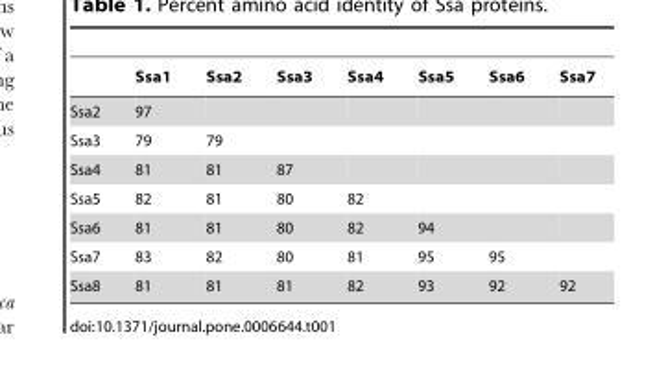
<table><thead><tr><td></td><td>Ssa1</td><td>Ssa2</td><td>Ssa3</td><td>Ssa4</td><td>Ssa5</td><td>Ssa6</td><td>Ssa7</td></tr></thead><tbody><tr><td>Ssa2</td><td>97</td><td></td><td></td><td></td><td></td><td></td><td></td></tr><tr><td>Ssa3</td><td>79</td><td>79</td><td></td><td></td><td></td><td></td><td></td></tr><tr><td>Ssa4</td><td>81</td><td>81</td><td>87</td><td></td><td></td><td></td><td></td></tr><tr><td>Ssa5</td><td>82</td><td>81</td><td>80</td><td>82</td><td></td><td></td><td></td></tr><tr><td>Ssa6</td><td>81</td><td>81</td><td>80</td><td>82</td><td>94</td><td></td><td></td></tr><tr><td>Ssa7</td><td>83</td><td>82</td><td>80</td><td>81</td><td>95</td><td>95</td><td></td></tr><tr><td>Ssa8</td><td>81</td><td>81</td><td>81</td><td>82</td><td>93</td><td>92</td><td>92</td></tr></tbody></table>